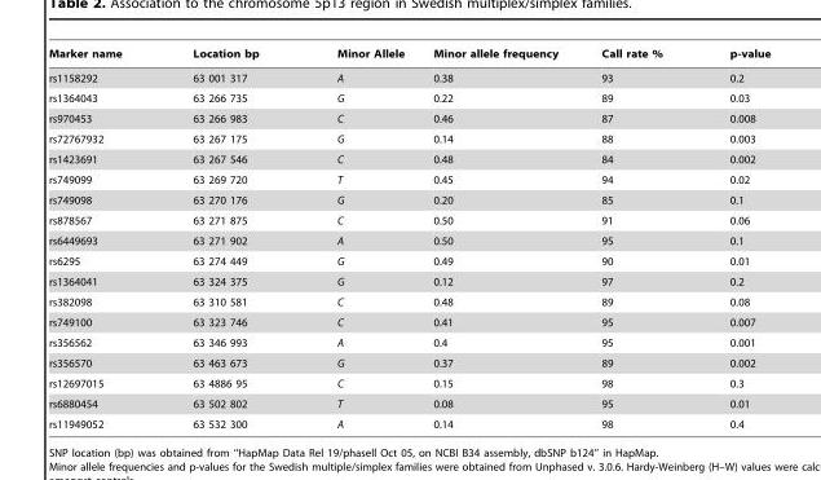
<table><thead><tr><td>Marker name</td><td>Location bp</td><td>Minor Allele</td><td>Minor allele frequency</td><td>Call rate %</td><td>p-value</td></tr></thead><tbody><tr><td>rs1158292</td><td>63 001 317</td><td>A</td><td>0.38</td><td>93</td><td>0.2</td></tr><tr><td>rs1364043</td><td>63 266 735</td><td>G</td><td>0.22</td><td>89</td><td>0.03</td></tr><tr><td>rs970453</td><td>63 266 983</td><td>C</td><td>0.46</td><td>87</td><td>0.008</td></tr><tr><td>rs72767932</td><td>63 267 175</td><td>G</td><td>0.14</td><td>88</td><td>0.003</td></tr><tr><td>rs1423691</td><td>63 267 546</td><td>C</td><td>0.48</td><td>84</td><td>0.002</td></tr><tr><td>rs749099</td><td>63 269 720</td><td>T</td><td>0.45</td><td>94</td><td>0.02</td></tr><tr><td>rs749098</td><td>63 270 176</td><td>G</td><td>0.20</td><td>85</td><td>0.1</td></tr><tr><td>rs878567</td><td>63 271 875</td><td>C</td><td>0.50</td><td>91</td><td>0.06</td></tr><tr><td>rs6449693</td><td>63 271 902</td><td>A</td><td>0.50</td><td>95</td><td>0.1</td></tr><tr><td>rs6295</td><td>63 274 449</td><td>G</td><td>0.49</td><td>90</td><td>0.01</td></tr><tr><td>rs1364041</td><td>63 324 375</td><td>G</td><td>0.12</td><td>97</td><td>0.2</td></tr><tr><td>rs382098</td><td>63 310 581</td><td>C</td><td>0.48</td><td>89</td><td>0.08</td></tr><tr><td>rs749100</td><td>63 323 746</td><td>C</td><td>0.41</td><td>95</td><td>0.007</td></tr><tr><td>rs356562</td><td>63 346 993</td><td>A</td><td>0.4</td><td>95</td><td>0.001</td></tr><tr><td>rs356570</td><td>63 463 673</td><td>G</td><td>0.37</td><td>89</td><td>0.002</td></tr><tr><td>rs12697015</td><td>63 4886 95</td><td>C</td><td>0.15</td><td>98</td><td>0.3</td></tr><tr><td>rs6880454</td><td>63 502 802</td><td>T</td><td>0.08</td><td>95</td><td>0.01</td></tr><tr><td>rs11949052</td><td>63 532 300</td><td>A</td><td>0.14</td><td>98</td><td>0.4</td></tr></tbody></table>